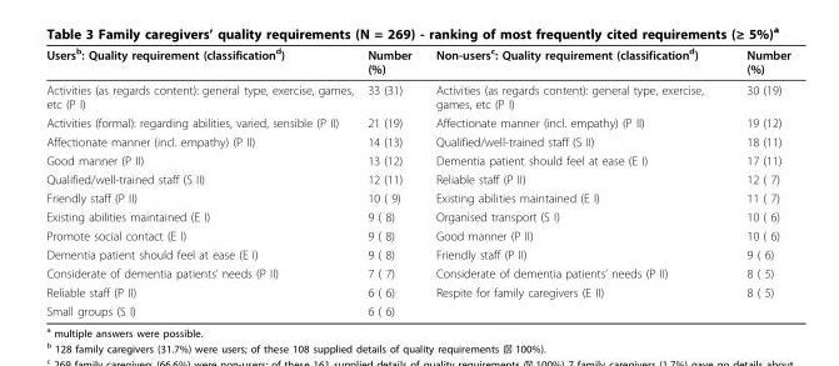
<table><thead><tr><td>Users<sup>b</sup>: Quality requirement (classification<sup>d</sup>)</td><td>Number (%)</td><td>Non-users<sup>c</sup>: Quality requirement (classification<sup>d</sup>)</td><td>Number (%)</td></tr></thead><tbody><tr><td>Activities (as regards content): general type, exercise, games, etc (P I)</td><td>33 (31)</td><td>Activities (as regards content): general type, exercise, games, etc (P I)</td><td>30 (19)</td></tr><tr><td>Activities (formal): regarding abilities, varied, sensible (P II)</td><td>21 (19)</td><td>Affectionate manner (incl. empathy) (P II)</td><td>19 (12)</td></tr><tr><td>Affectionate manner (incl. empathy) (P II)</td><td>14 (13)</td><td>Qualified/well-trained staff (S II)</td><td>18 (11)</td></tr><tr><td>Good manner (P II)</td><td>13 (12)</td><td>Dementia patient should feel at ease (E I)</td><td>17 (11)</td></tr><tr><td>Qualified/well-trained staff (S II)</td><td>12 (11)</td><td>Reliable staff (P II)</td><td>12 ( 7)</td></tr><tr><td>Friendly staff (P II)</td><td>10 ( 9)</td><td>Existing abilities maintained (E I)</td><td>11 ( 7)</td></tr><tr><td>Existing abilities maintained (E I)</td><td>9 ( 8)</td><td>Organised transport (S I)</td><td>10 ( 6)</td></tr><tr><td>Promote social contact (E I)</td><td>9 ( 8)</td><td>Good manner (P II)</td><td>10 ( 6)</td></tr><tr><td>Dementia patient should feel at ease (E I)</td><td>9 ( 8)</td><td>Friendly staff (P II)</td><td>9 ( 6)</td></tr><tr><td>Considerate of dementia patients’ needs (P II)</td><td>7 ( 7)</td><td>Considerate of dementia patients’ needs (P II)</td><td>8 ( 5)</td></tr><tr><td>Reliable staff (P II)</td><td>6 ( 6)</td><td>Respite for family caregivers (E II)</td><td>8 ( 5)</td></tr><tr><td>Small groups (S I)</td><td>6 ( 6)</td><td></td><td></td></tr></tbody></table>